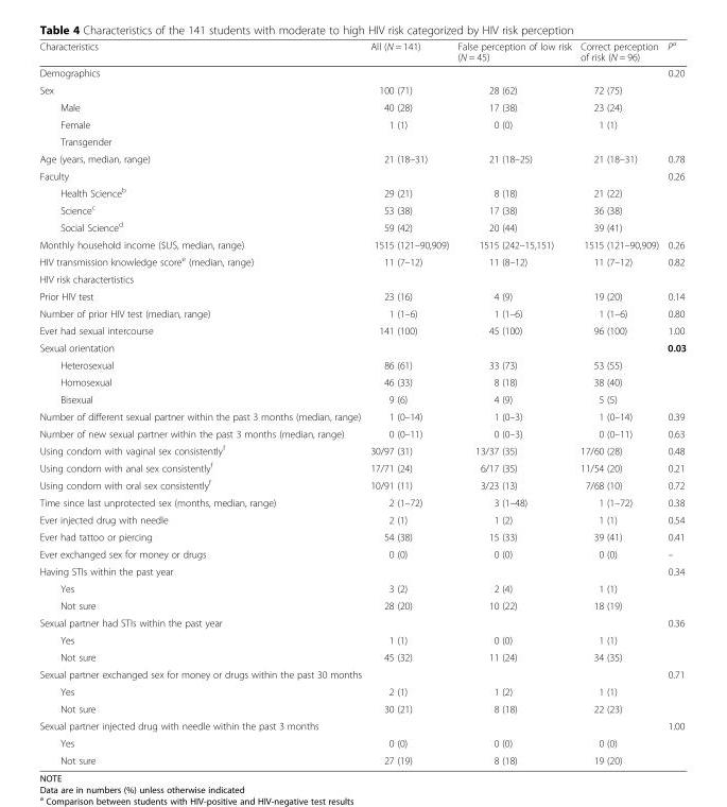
<table><thead><tr><td>Characteristics</td><td>All (N = 141)</td><td>False perception of low risk (N = 45)</td><td>Correct perception of risk (N = 96)</td><td>P<sup>a</sup></td></tr></thead><tbody><tr><td>Demographics</td><td></td><td></td><td></td><td>0.20</td></tr><tr><td>Sex</td><td>100 (71)</td><td>28 (62)</td><td>72 (75)</td><td></td></tr><tr><td>Male</td><td>40 (28)</td><td>17 (38)</td><td>23 (24)</td><td></td></tr><tr><td>Female</td><td>1 (1)</td><td>0 (0)</td><td>1 (1)</td><td></td></tr><tr><td colspan="5">Transgender</td></tr><tr><td>Age (years, median, range)</td><td>21 (18–31)</td><td>21 (18–25)</td><td>21 (18–31)</td><td>0.78</td></tr><tr><td>Faculty</td><td></td><td></td><td></td><td>0.26</td></tr><tr><td>Health Science<sup>b</sup></td><td>29 (21)</td><td>8 (18)</td><td>21 (22)</td><td></td></tr><tr><td>Science<sup>c</sup></td><td>53 (38)</td><td>17 (38)</td><td>36 (38)</td><td></td></tr><tr><td>Social Science<sup>d</sup></td><td>59 (42)</td><td>20 (44)</td><td>39 (41)</td><td></td></tr><tr><td>Monthly household income ($US, median, range)</td><td>1515 (121–90,909)</td><td>1515 (242–15,151)</td><td>1515 (121–90,909)</td><td>0.26</td></tr><tr><td>HIV transmission knowledge score<sup>e</sup> (median, range)</td><td>11 (7–12)</td><td>11 (8–12)</td><td>11 (7–12)</td><td>0.82</td></tr><tr><td colspan="5">HIV risk charactertistics</td></tr><tr><td>Prior HIV test</td><td>23 (16)</td><td>4 (9)</td><td>19 (20)</td><td>0.14</td></tr><tr><td>Number of prior HIV test (median, range)</td><td>1 (1–6)</td><td>1 (1–6)</td><td>1 (1–6)</td><td>0.80</td></tr><tr><td>Ever had sexual intercourse</td><td>141 (100)</td><td>45 (100)</td><td>96 (100)</td><td>1.00</td></tr><tr><td>Sexual orientation</td><td></td><td></td><td></td><td>0.03</td></tr><tr><td>Heterosexual</td><td>86 (61)</td><td>33 (73)</td><td>53 (55)</td><td></td></tr><tr><td>Homosexual</td><td>46 (33)</td><td>8 (18)</td><td>38 (40)</td><td></td></tr><tr><td>Bisexual</td><td>9 (6)</td><td>4 (9)</td><td>5 (5)</td><td></td></tr><tr><td>Number of different sexual partner within the past 3 months (median, range)</td><td>1 (0–14)</td><td>1 (0–3)</td><td>1 (0–14)</td><td>0.39</td></tr><tr><td>Number of new sexual partner within the past 3 months (median, range)</td><td>0 (0–11)</td><td>0 (0–3)</td><td>0 (0–11)</td><td>0.63</td></tr><tr><td>Using condom with vaginal sex consistently<sup>f</sup></td><td>30/97 (31)</td><td>13/37 (35)</td><td>17/60 (28)</td><td>0.48</td></tr><tr><td>Using condom with anal sex consistently<sup>f</sup></td><td>17/71 (24)</td><td>6/17 (35)</td><td>11/54 (20)</td><td>0.21</td></tr><tr><td>Using condom with oral sex consistently<sup>f</sup></td><td>10/91 (11)</td><td>3/23 (13)</td><td>7/68 (10)</td><td>0.72</td></tr><tr><td>Time since last unprotected sex (months, median, range)</td><td>2 (1–72)</td><td>3 (1–48)</td><td>1 (1–72)</td><td>0.38</td></tr><tr><td>Ever injected drug with needle</td><td>2 (1)</td><td>1 (2)</td><td>1 (1)</td><td>0.54</td></tr><tr><td>Ever had tattoo or piercing</td><td>54 (38)</td><td>15 (33)</td><td>39 (41)</td><td>0.41</td></tr><tr><td>Ever exchanged sex for money or drugs</td><td>0 (0)</td><td>0 (0)</td><td>0 (0)</td><td>–</td></tr><tr><td>Having STIs within the past year</td><td></td><td></td><td></td><td>0.34</td></tr><tr><td>Yes</td><td>3 (2)</td><td>2 (4)</td><td>1 (1)</td><td></td></tr><tr><td>Not sure</td><td>28 (20)</td><td>10 (22)</td><td>18 (19)</td><td></td></tr><tr><td>Sexual partner had STIs within the past year</td><td></td><td></td><td></td><td>0.36</td></tr><tr><td>Yes</td><td>1 (1)</td><td>0 (0)</td><td>1 (1)</td><td></td></tr><tr><td>Not sure</td><td>45 (32)</td><td>11 (24)</td><td>34 (35)</td><td></td></tr><tr><td>Sexual partner exchanged sex for money or drugs within the past 30 months</td><td></td><td></td><td></td><td>0.71</td></tr><tr><td>Yes</td><td>2 (1)</td><td>1 (2)</td><td>1 (1)</td><td></td></tr><tr><td>Not sure</td><td>30 (21)</td><td>8 (18)</td><td>22 (23)</td><td></td></tr><tr><td>Sexual partner injected drug with needle within the past 3 months</td><td></td><td></td><td></td><td>1.00</td></tr><tr><td>Yes</td><td>0 (0)</td><td>0 (0)</td><td>0 (0)</td><td></td></tr><tr><td>Not sure</td><td>27 (19)</td><td>8 (18)</td><td>19 (20)</td><td></td></tr></tbody></table>